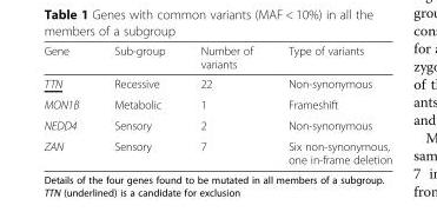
<table><thead><tr><td>Gene</td><td>Sub-group</td><td>Number of variants</td><td>Type of variants</td></tr></thead><tbody><tr><td>TTN</td><td>Recessive</td><td>22</td><td>Non-synonymous</td></tr><tr><td>MON1B</td><td>Metabolic</td><td>1</td><td>Frameshift</td></tr><tr><td>NEDD4</td><td>Sensory</td><td>2</td><td>Non-synonymous</td></tr><tr><td>ZAN</td><td>Sensory</td><td>7</td><td>Six non-synonymous, one in-frame deletion</td></tr></tbody></table>